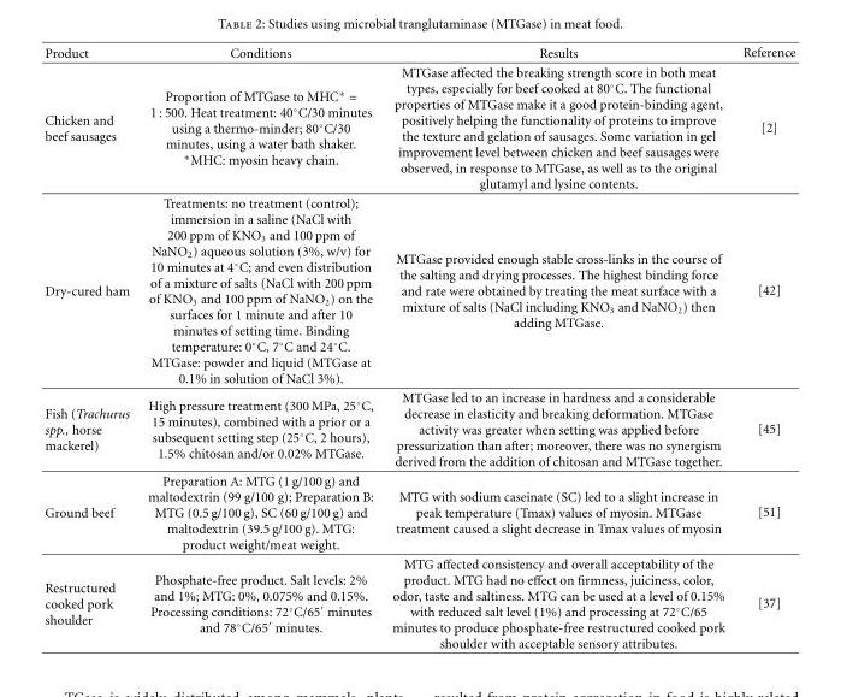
<table><thead><tr><td>Product</td><td>Conditions</td><td>Results</td><td>Reference</td></tr></thead><tbody><tr><td>Chicken and beef sausages</td><td>Proportion of MTGase to MHC∗ = 1 : 500. Heat treatment: 40◦C/30 minutes using a thermo-minder; 80◦C/30 minutes, using a water bath shaker. ∗MHC: myosin heavy chain.</td><td>MTGase affected the breaking strength score in both meat types, especially for beef cooked at 80◦C. The functional properties of MTGase make it a good protein-binding agent, positively helping the functionality of proteins to improve the texture and gelation of sausages. Some variation in gel improvement level between chicken and beef sausages were observed, in response to MTGase, as well as to the original glutamyl and lysine contents.</td><td>[2]</td></tr><tr><td>Dry-cured ham</td><td>Treatments: no treatment (control); immersion in a saline (NaCl with 200 ppm of KNO3 and 100 ppm of NaNO2) aqueous solution (3%, w/v) for 10 minutes at 4◦C; and even distribution of a mixture of salts (NaCl with 200 ppm of KNO3 and 100 ppm of NaNO2) on the surfaces for 1 minute and after 10 minutes of setting time. Binding temperature: 0◦C, 7◦C and 24◦C. MTGase: powder and liquid (MTGase at 0.1% in solution of NaCl 3%).</td><td>MTGase provided enough stable cross-links in the course of the salting and drying processes. The highest binding force and rate were obtained by treating the meat surface with a mixture of salts (NaCl including KNO3 and NaNO2) then adding MTGase.</td><td>[42]</td></tr><tr><td>Fish (Trachurus spp., horse mackerel)</td><td>High pressure treatment (300 MPa, 25◦C, 15 minutes), combined with a prior or a subsequent setting step (25◦C, 2 hours), 1.5% chitosan and/or 0.02% MTGase.</td><td>MTGase led to an increase in hardness and a considerable decrease in elasticity and breaking deformation. MTGase activity was greater when setting was applied before pressurization than after; moreover, there was no synergism derived from the addition of chitosan and MTGase together.</td><td>[45]</td></tr><tr><td>Ground beef</td><td>Preparation A: MTG (1 g/100 g) and maltodextrin (99 g/100 g); Preparation B: MTG (0.5 g/100 g), SC (60 g/100 g) and maltodextrin (39.5 g/100 g). MTG: product weight/meat weight.</td><td>MTG with sodium caseinate (SC) led to a slight increase in peak temperature (Tmax) values of myosin. MTGase treatment caused a slight decrease in Tmax values of myosin</td><td>[51]</td></tr><tr><td>Restructured cooked pork shoulder</td><td>Phosphate-free product. Salt levels: 2% and 1%; MTG: 0%, 0.075% and 0.15%. Processing conditions: 72◦C/65′ minutes and 78◦C/65′ minutes.</td><td>MTG affected consistency and overall acceptability of the product. MTG had no effect on firmness, juiciness, color, odor, taste and saltiness. MTG can be used at a level of 0.15% with reduced salt level (1%) and processing at 72◦C/65 minutes to produce phosphate-free restructured cooked pork shoulder with acceptable sensory attributes.</td><td>[37]</td></tr></tbody></table>